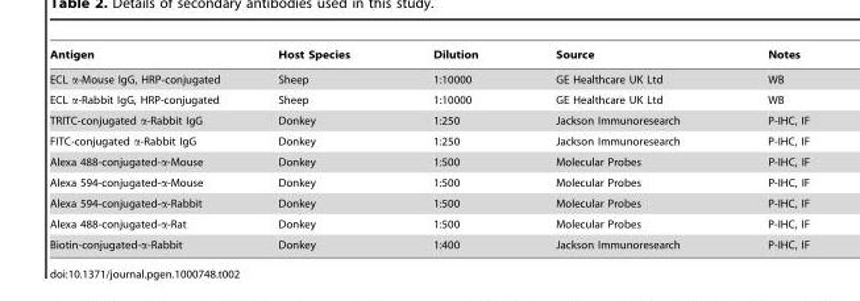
<table><thead><tr><td>Antigen</td><td>Host Species</td><td>Dilution</td><td>Source</td><td>Notes</td></tr></thead><tbody><tr><td>ECL α-Mouse IgG, HRP-conjugated</td><td>Sheep</td><td>1:10000</td><td>GE Healthcare UK Ltd</td><td>WB</td></tr><tr><td>ECL α-Rabbit IgG, HRP-conjugated</td><td>Sheep</td><td>1:10000</td><td>GE Healthcare UK Ltd</td><td>WB</td></tr><tr><td>TRITC-conjugated α-Rabbit IgG</td><td>Donkey</td><td>1:250</td><td>Jackson Immunoresearch</td><td>P-IHC, IF</td></tr><tr><td>FITC-conjugated α-Rabbit IgG</td><td>Donkey</td><td>1:250</td><td>Jackson Immunoresearch</td><td>P-IHC, IF</td></tr><tr><td>Alexa 488-conjugated-α-Mouse</td><td>Donkey</td><td>1:500</td><td>Molecular Probes</td><td>P-IHC, IF</td></tr><tr><td>Alexa 594-conjugated-α-Mouse</td><td>Donkey</td><td>1:500</td><td>Molecular Probes</td><td>P-IHC, IF</td></tr><tr><td>Alexa 594-conjugated-α-Rabbit</td><td>Donkey</td><td>1:500</td><td>Molecular Probes</td><td>P-IHC, IF</td></tr><tr><td>Alexa 488-conjugated-α-Rat</td><td>Donkey</td><td>1:500</td><td>Molecular Probes</td><td>P-IHC, IF</td></tr><tr><td>Biotin-conjugated-α-Rabbit</td><td>Donkey</td><td>1:400</td><td>Jackson Immunoresearch</td><td>P-IHC, IF</td></tr></tbody></table>